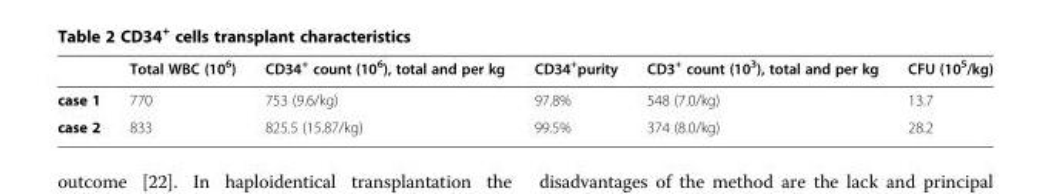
<table><thead><tr><td></td><td>Total WBC (10<sup>6</sup>)</td><td>CD34<sup>+</sup> count (10<sup>6</sup>), total and per kg</td><td>CD34<sup>+</sup>purity</td><td>CD3<sup>+</sup> count (10<sup>3</sup>), total and per kg</td><td>CFU (10<sup>5</sup>/kg)</td></tr></thead><tbody><tr><td>case 1</td><td>770</td><td>753 (9.6/kg)</td><td>97.8%</td><td>548 (7.0/kg)</td><td>13.7</td></tr><tr><td>case 2</td><td>833</td><td>825.5 (15.87/kg)</td><td>99.5%</td><td>374 (8.0/kg)</td><td>28.2</td></tr></tbody></table>